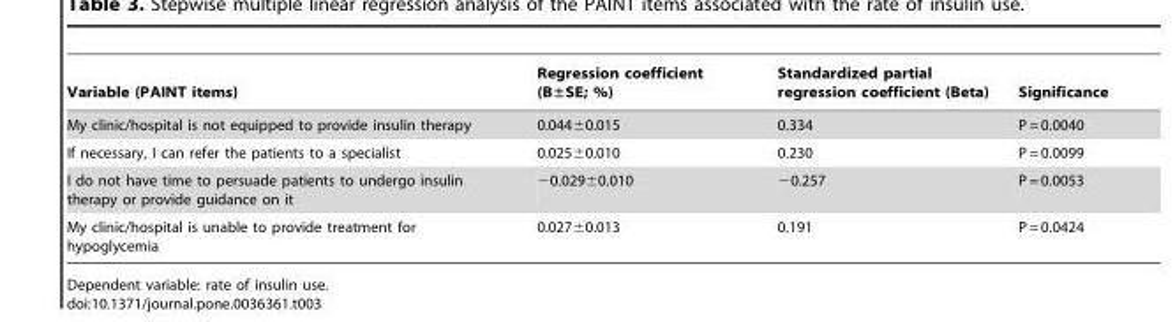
<table><thead><tr><td>Variable (PAINT items)</td><td>Regression coefficient (B±SE; %)</td><td>Standardized partial regression coefficient (Beta)</td><td>Significance</td></tr></thead><tbody><tr><td>My clinic/hospital is not equipped to provide insulin therapy</td><td>0.044±0.015</td><td>0.334</td><td>P = 0.0040</td></tr><tr><td>If necessary, I can refer the patients to a specialist</td><td>0.025±0.010</td><td>0.230</td><td>P = 0.0099</td></tr><tr><td>I do not have time to persuade patients to undergo insulin therapy or provide guidance on it</td><td>−0.029±0.010</td><td>−0.257</td><td>P = 0.0053</td></tr><tr><td>My clinic/hospital is unable to provide treatment for hypoglycemia</td><td>0.027±0.013</td><td>0.191</td><td>P = 0.0424</td></tr></tbody></table>